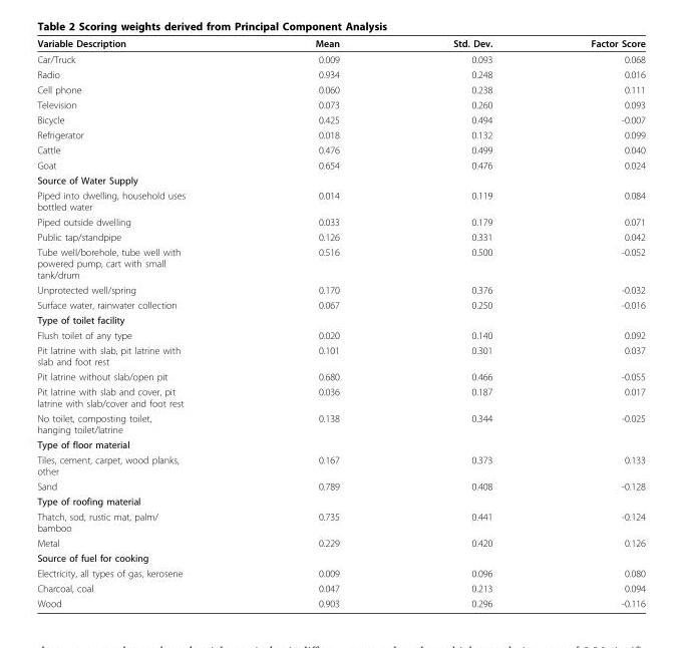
<table><thead><tr><td>Variable Description</td><td>Mean</td><td>Std. Dev.</td><td>Factor Score</td></tr></thead><tbody><tr><td>Car/Truck</td><td>0.009</td><td>0.093</td><td>0.068</td></tr><tr><td>Radio</td><td>0.934</td><td>0.248</td><td>0.016</td></tr><tr><td>Cell phone</td><td>0.060</td><td>0.238</td><td>0.111</td></tr><tr><td>Television</td><td>0.073</td><td>0.260</td><td>0.093</td></tr><tr><td>Bicycle</td><td>0.425</td><td>0.494</td><td>-0.007</td></tr><tr><td>Refrigerator</td><td>0.018</td><td>0.132</td><td>0.099</td></tr><tr><td>Cattle</td><td>0.476</td><td>0.499</td><td>0.040</td></tr><tr><td>Goat</td><td>0.654</td><td>0.476</td><td>0.024</td></tr><tr><td colspan="4">Source of Water Supply</td></tr><tr><td>Piped into dwelling, household uses bottled water</td><td>0.014</td><td>0.119</td><td>0.084</td></tr><tr><td>Piped outside dwelling</td><td>0.033</td><td>0.179</td><td>0.071</td></tr><tr><td>Public tap/standpipe</td><td>0.126</td><td>0.331</td><td>0.042</td></tr><tr><td>Tube well/borehole, tube well with powered pump, cart with small tank/drum</td><td>0.516</td><td>0.500</td><td>-0.052</td></tr><tr><td>Unprotected well/spring</td><td>0.170</td><td>0.376</td><td>-0.032</td></tr><tr><td>Surface water, rainwater collection</td><td>0.067</td><td>0.250</td><td>-0.016</td></tr><tr><td colspan="4">Type of toilet facility</td></tr><tr><td>Flush toilet of any type</td><td>0.020</td><td>0.140</td><td>0.092</td></tr><tr><td>Pit latrine with slab, pit latrine with slab and foot rest</td><td>0.101</td><td>0.301</td><td>0.037</td></tr><tr><td>Pit latrine without slab/open pit</td><td>0.680</td><td>0.466</td><td>-0.055</td></tr><tr><td>Pit latrine with slab and cover, pit latrine with slab/cover and foot rest</td><td>0.036</td><td>0.187</td><td>0.017</td></tr><tr><td>No toilet, composting toilet, hanging toilet/latrine</td><td>0.138</td><td>0.344</td><td>-0.025</td></tr><tr><td colspan="4">Type of floor material</td></tr><tr><td>Tiles, cement, carpet, wood planks, other</td><td>0.167</td><td>0.373</td><td>0.133</td></tr><tr><td>Sand</td><td>0.789</td><td>0.408</td><td>-0.128</td></tr><tr><td colspan="4">Type of roofing material</td></tr><tr><td>Thatch, sod, rustic mat, palm/ bamboo</td><td>0.735</td><td>0.441</td><td>-0.124</td></tr><tr><td>Metal</td><td>0.229</td><td>0.420</td><td>0.126</td></tr><tr><td colspan="4">Source of fuel for cooking</td></tr><tr><td>Electricity, all types of gas, kerosene</td><td>0.009</td><td>0.096</td><td>0.080</td></tr><tr><td>Charcoal, coal</td><td>0.047</td><td>0.213</td><td>0.094</td></tr><tr><td>Wood</td><td>0.903</td><td>0.296</td><td>-0.116</td></tr></tbody></table>